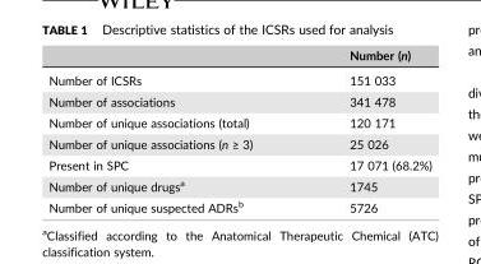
<table><thead><tr><td></td><td>Number (n)</td></tr></thead><tbody><tr><td>Number of ICSRs</td><td>151 033</td></tr><tr><td>Number of associations</td><td>341 478</td></tr><tr><td>Number of unique associations (total)</td><td>120 171</td></tr><tr><td>Number of unique associations (n ≥ 3)</td><td>25 026</td></tr><tr><td>Present in SPC</td><td>17 071 (68.2%)</td></tr><tr><td>Number of unique drugs<sup>a</sup></td><td>1745</td></tr><tr><td>Number of unique suspected ADRs<sup>b</sup></td><td>5726</td></tr></tbody></table>